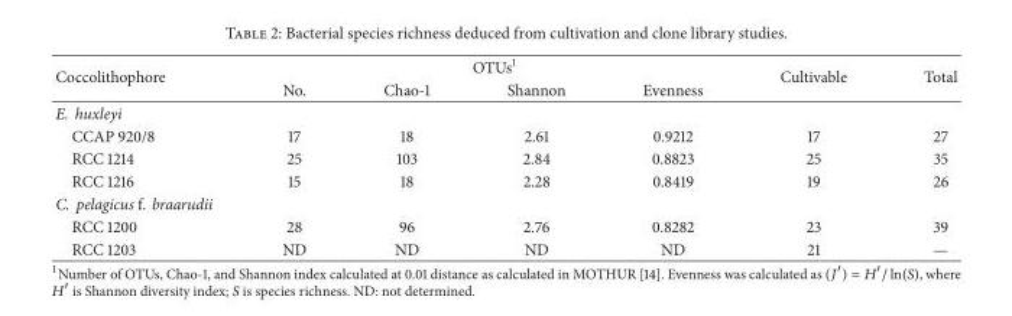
<table><thead><tr><td rowspan="2">Coccolithophore</td><td colspan="4">OTUs<sup>1</sup></td><td rowspan="2">Cultivable</td><td rowspan="2">Total</td></tr><tr><td>No.</td><td>Chao-1</td><td>Shannon</td><td>Evenness</td></tr></thead><tbody><tr><td colspan="7">E. huxleyi</td></tr><tr><td>CCAP 920/8</td><td>17</td><td>18</td><td>2.61</td><td>0.9212</td><td>17</td><td>27</td></tr><tr><td>RCC 1214</td><td>25</td><td>103</td><td>2.84</td><td>0.8823</td><td>25</td><td>35</td></tr><tr><td>RCC 1216</td><td>15</td><td>18</td><td>2.28</td><td>0.8419</td><td>19</td><td>26</td></tr><tr><td colspan="7">C. pelagicus f. braarudii</td></tr><tr><td>RCC 1200</td><td>28</td><td>96</td><td>2.76</td><td>0.8282</td><td>23</td><td>39</td></tr><tr><td>RCC 1203</td><td>ND</td><td>ND</td><td>ND</td><td>ND</td><td>21</td><td>—</td></tr></tbody></table>